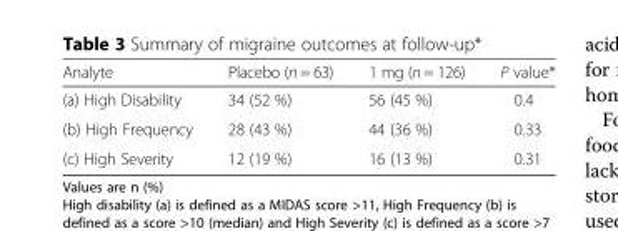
<table><thead><tr><td>Analyte</td><td>Placebo (n = 63)</td><td>1 mg (n = 126)</td><td>P value*</td></tr></thead><tbody><tr><td>(a) High Disability</td><td>34 (52 %)</td><td>56 (45 %)</td><td>0.4</td></tr><tr><td>(b) High Frequency</td><td>28 (43 %)</td><td>44 (36 %)</td><td>0.33</td></tr><tr><td>(c) High Severity</td><td>12 (19 %)</td><td>16 (13 %)</td><td>0.31</td></tr></tbody></table>